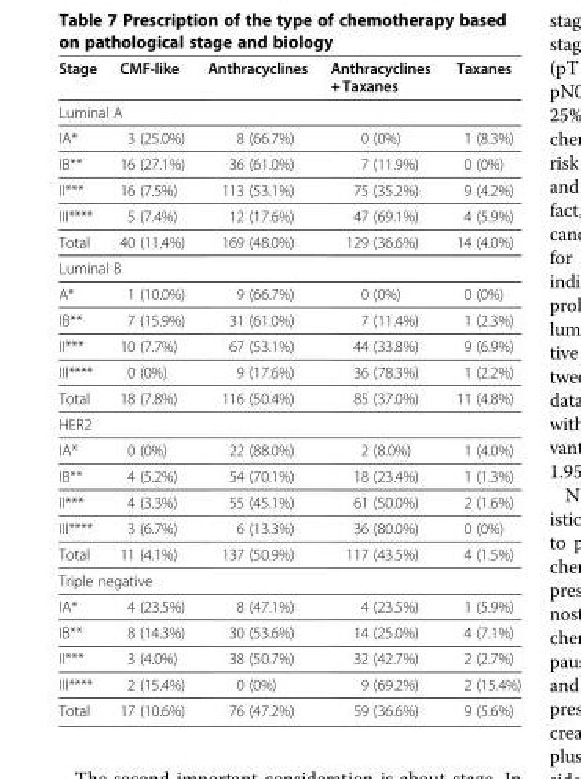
<table><thead><tr><td>Stage</td><td>CMF-like</td><td>Anthracyclines</td><td>Anthracyclines + Taxanes</td><td>Taxanes</td></tr></thead><tbody><tr><td colspan="5">Luminal A</td></tr><tr><td>IA*</td><td>3 (25.0%)</td><td>8 (66.7%)</td><td>0 (0%)</td><td>1 (8.3%)</td></tr><tr><td>IB**</td><td>16 (27.1%)</td><td>36 (61.0%)</td><td>7 (11.9%)</td><td>0 (0%)</td></tr><tr><td>II***</td><td>16 (7.5%)</td><td>113 (53.1%)</td><td>75 (35.2%)</td><td>9 (4.2%)</td></tr><tr><td>III****</td><td>5 (7.4%)</td><td>12 (17.6%)</td><td>47 (69.1%)</td><td>4 (5.9%)</td></tr><tr><td>Total</td><td>40 (11.4%)</td><td>169 (48.0%)</td><td>129 (36.6%)</td><td>14 (4.0%)</td></tr><tr><td colspan="5">Luminal B</td></tr><tr><td>A*</td><td>1 (10.0%)</td><td>9 (66.7%)</td><td>0 (0%)</td><td>0 (0%)</td></tr><tr><td>IB**</td><td>7 (15.9%)</td><td>31 (61.0%)</td><td>7 (11.4%)</td><td>1 (2.3%)</td></tr><tr><td>II***</td><td>10 (7.7%)</td><td>67 (53.1%)</td><td>44 (33.8%)</td><td>9 (6.9%)</td></tr><tr><td>III****</td><td>0 (0%)</td><td>9 (17.6%)</td><td>36 (78.3%)</td><td>1 (2.2%)</td></tr><tr><td>Total</td><td>18 (7.8%)</td><td>116 (50.4%)</td><td>85 (37.0%)</td><td>11 (4.8%)</td></tr><tr><td colspan="5">HER2</td></tr><tr><td>IA*</td><td>0 (0%)</td><td>22 (88.0%)</td><td>2 (8.0%)</td><td>1 (4.0%)</td></tr><tr><td>IB**</td><td>4 (5.2%)</td><td>54 (70.1%)</td><td>18 (23.4%)</td><td>1 (1.3%)</td></tr><tr><td>II***</td><td>4 (3.3%)</td><td>55 (45.1%)</td><td>61 (50.0%)</td><td>2 (1.6%)</td></tr><tr><td>III****</td><td>3 (6.7%)</td><td>6 (13.3%)</td><td>36 (80.0%)</td><td>0 (0%)</td></tr><tr><td>Total</td><td>11 (4.1%)</td><td>137 (50.9%)</td><td>117 (43.5%)</td><td>4 (1.5%)</td></tr><tr><td colspan="5">Triple negative</td></tr><tr><td>IA*</td><td>4 (23.5%)</td><td>8 (47.1%)</td><td>4 (23.5%)</td><td>1 (5.9%)</td></tr><tr><td>IB**</td><td>8 (14.3%)</td><td>30 (53.6%)</td><td>14 (25.0%)</td><td>4 (7.1%)</td></tr><tr><td>II***</td><td>3 (4.0%)</td><td>38 (50.7%)</td><td>32 (42.7%)</td><td>2 (2.7%)</td></tr><tr><td>III****</td><td>2 (15.4%)</td><td>0 (0%)</td><td>9 (69.2%)</td><td>2 (15.4%)</td></tr><tr><td>Total</td><td>17 (10.6%)</td><td>76 (47.2%)</td><td>59 (36.6%)</td><td>9 (5.6%)</td></tr></tbody></table>